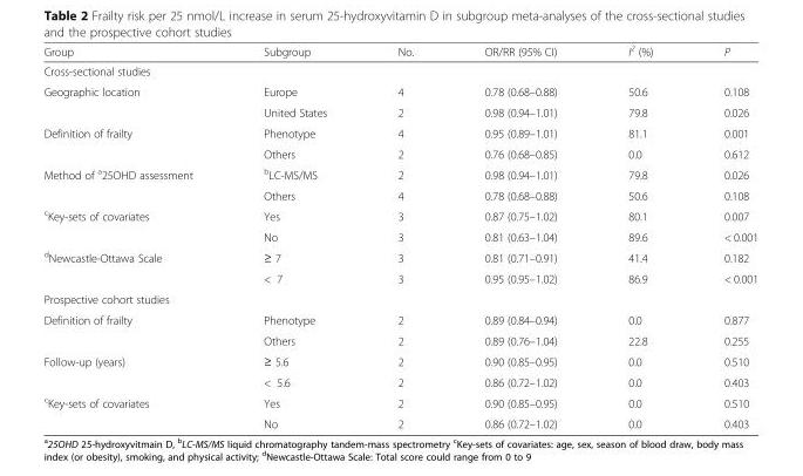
<table><thead><tr><td>Group</td><td>Subgroup</td><td>No.</td><td>OR/RR (95% CI)</td><td>I<sup>2</sup> (%)</td><td>P</td></tr></thead><tbody><tr><td colspan="6">Cross-sectional studies</td></tr><tr><td rowspan="2">Geographic location</td><td>Europe</td><td>4</td><td>0.78 (0.68–0.88)</td><td>50.6</td><td>0.108</td></tr><tr><td>United States</td><td>2</td><td>0.98 (0.94–1.01)</td><td>79.8</td><td>0.026</td></tr><tr><td rowspan="2">Definition of frailty</td><td>Phenotype</td><td>4</td><td>0.95 (0.89–1.01)</td><td>81.1</td><td>0.001</td></tr><tr><td>Others</td><td>2</td><td>0.76 (0.68–0.85)</td><td>0.0</td><td>0.612</td></tr><tr><td rowspan="2">Method of <sup>a</sup>25OHD assessment</td><td><sup>b</sup>LC-MS/MS</td><td>2</td><td>0.98 (0.94–1.01)</td><td>79.8</td><td>0.026</td></tr><tr><td>Others</td><td>4</td><td>0.78 (0.68–0.88)</td><td>50.6</td><td>0.108</td></tr><tr><td rowspan="2"><sup>c</sup>Key-sets of covariates</td><td>Yes</td><td>3</td><td>0.87 (0.75–1.02)</td><td>80.1</td><td>0.007</td></tr><tr><td>No</td><td>3</td><td>0.81 (0.63–1.04)</td><td>89.6</td><td>&lt; 0.001</td></tr><tr><td rowspan="2"><sup>d</sup>Newcastle-Ottawa Scale</td><td>≥ 7</td><td>3</td><td>0.81 (0.71–0.91)</td><td>41.4</td><td>0.182</td></tr><tr><td>&lt; 7</td><td>3</td><td>0.95 (0.95–1.02)</td><td>86.9</td><td>&lt; 0.001</td></tr><tr><td colspan="6">Prospective cohort studies</td></tr><tr><td rowspan="2">Definition of frailty</td><td>Phenotype</td><td>2</td><td>0.89 (0.84–0.94)</td><td>0.0</td><td>0.877</td></tr><tr><td>Others</td><td>2</td><td>0.89 (0.76–1.04)</td><td>22.8</td><td>0.255</td></tr><tr><td rowspan="2">Follow-up (years)</td><td>≥ 5.6</td><td>2</td><td>0.90 (0.85–0.95)</td><td>0.0</td><td>0.510</td></tr><tr><td>&lt; 5.6</td><td>2</td><td>0.86 (0.72–1.02)</td><td>0.0</td><td>0.403</td></tr><tr><td rowspan="2"><sup>c</sup>Key-sets of covariates</td><td>Yes</td><td>2</td><td>0.90 (0.85–0.95)</td><td>0.0</td><td>0.510</td></tr><tr><td>No</td><td>2</td><td>0.86 (0.72–1.02)</td><td>0.0</td><td>0.403</td></tr></tbody></table>